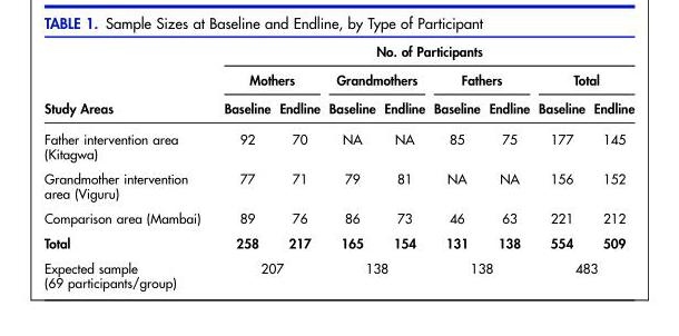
<table><thead><tr><td rowspan="3">Study Areas</td><td colspan="8">No. of Participants</td></tr><tr><td colspan="2">Mothers</td><td colspan="2">Grandmothers</td><td colspan="2">Fathers</td><td colspan="2">Total</td></tr><tr><td>Baseline</td><td>Endline</td><td>Baseline</td><td>Endline</td><td>Baseline</td><td>Endline</td><td>Baseline</td><td>Endline</td></tr></thead><tbody><tr><td>Father intervention area (Kitagwa)</td><td>92</td><td>70</td><td>NA</td><td>NA</td><td>85</td><td>75</td><td>177</td><td>145</td></tr><tr><td>Grandmother intervention area (Viguru)</td><td>77</td><td>71</td><td>79</td><td>81</td><td>NA</td><td>NA</td><td>156</td><td>152</td></tr><tr><td>Comparison area (Mambai)</td><td>89</td><td>76</td><td>86</td><td>73</td><td>46</td><td>63</td><td>221</td><td>212</td></tr><tr><td>Total</td><td>258</td><td>217</td><td>165</td><td>154</td><td>131</td><td>138</td><td>554</td><td>509</td></tr><tr><td>Expected sample (69 participants/group)</td><td colspan="2">207</td><td colspan="2">138</td><td colspan="2">138</td><td colspan="2">483</td></tr></tbody></table>